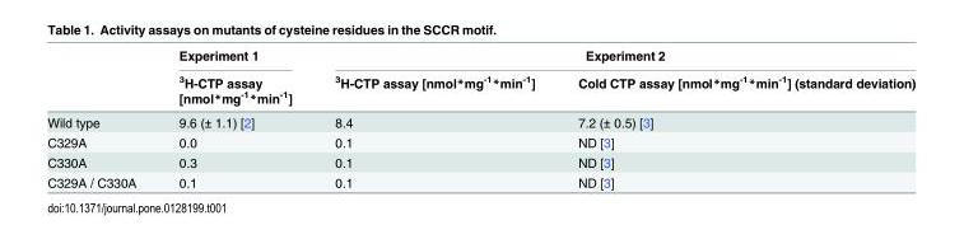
<table><thead><tr><td rowspan="2"></td><td rowspan="2">Experiment 1 <sup>3</sup>H-CTP assay [nmol*mg<sup>-1</sup>*min<sup>-1</sup>]</td><td colspan="2">Experiment 2</td></tr><tr><td><sup>3</sup>H-CTP assay [nmol*mg<sup>-1</sup>*min<sup>-1</sup>]</td><td>Cold CTP assay [nmol*mg<sup>-1</sup>*min<sup>-1</sup>] (standard deviation)</td></tr></thead><tbody><tr><td>Wild type</td><td>9.6 (± 1.1) [2]</td><td>8.4</td><td>7.2 (± 0.5) [3]</td></tr><tr><td>C329A</td><td>0.0</td><td>0.1</td><td>ND [3]</td></tr><tr><td>C330A</td><td>0.3</td><td>0.1</td><td>ND [3]</td></tr><tr><td>C329A / C330A</td><td>0.1</td><td>0.1</td><td>ND [3]</td></tr></tbody></table>